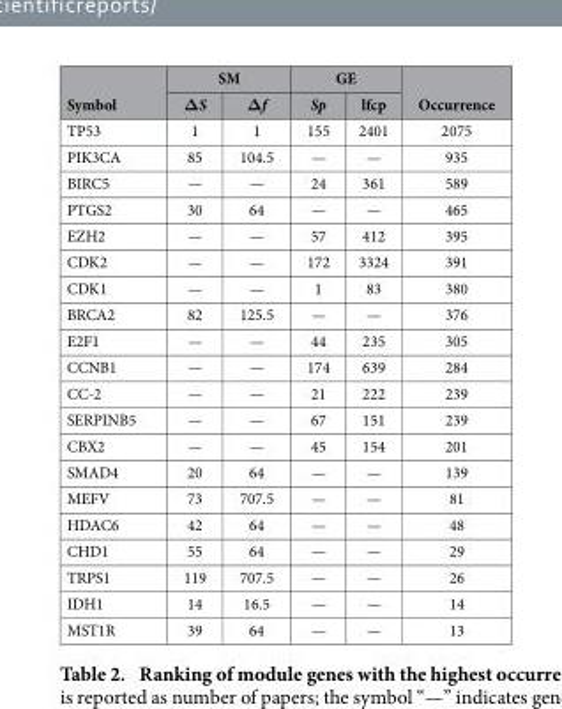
<table><thead><tr><td rowspan="2">Symbol</td><td colspan="2">SM</td><td colspan="2">GE</td><td rowspan="2">Occurrence</td></tr><tr><td>ΔS</td><td>Δf</td><td>Sp</td><td>lfcp</td></tr></thead><tbody><tr><td>TP53</td><td>1</td><td>1</td><td>155</td><td>2401</td><td>2075</td></tr><tr><td>PIK3CA</td><td>85</td><td>104.5</td><td>—</td><td>—</td><td>935</td></tr><tr><td>BIRC5</td><td>—</td><td>—</td><td>24</td><td>361</td><td>589</td></tr><tr><td>PTGS2</td><td>30</td><td>64</td><td>—</td><td>—</td><td>465</td></tr><tr><td>EZH2</td><td>—</td><td>—</td><td>57</td><td>412</td><td>395</td></tr><tr><td>CDK2</td><td>—</td><td>—</td><td>172</td><td>3324</td><td>391</td></tr><tr><td>CDK1</td><td>—</td><td>—</td><td>1</td><td>83</td><td>380</td></tr><tr><td>BRCA2</td><td>82</td><td>125.5</td><td>—</td><td>—</td><td>376</td></tr><tr><td>E2F1</td><td>—</td><td>—</td><td>44</td><td>235</td><td>305</td></tr><tr><td>CCNB1</td><td>—</td><td>—</td><td>174</td><td>639</td><td>284</td></tr><tr><td>CC-2</td><td>—</td><td>—</td><td>21</td><td>222</td><td>239</td></tr><tr><td>SERPINB5</td><td>—</td><td>—</td><td>67</td><td>151</td><td>239</td></tr><tr><td>CBX2</td><td>—</td><td>—</td><td>45</td><td>154</td><td>201</td></tr><tr><td>SMAD4</td><td>20</td><td>64</td><td>—</td><td>—</td><td>139</td></tr><tr><td>MEFV</td><td>73</td><td>707.5</td><td>—</td><td>—</td><td>81</td></tr><tr><td>HDAC6</td><td>42</td><td>64</td><td>—</td><td>—</td><td>48</td></tr><tr><td>CHD1</td><td>55</td><td>64</td><td>—</td><td>—</td><td>29</td></tr><tr><td>TRPS1</td><td>119</td><td>707.5</td><td>—</td><td>—</td><td>26</td></tr><tr><td>IDH1</td><td>14</td><td>16.5</td><td>—</td><td>—</td><td>14</td></tr><tr><td>MST1R</td><td>39</td><td>64</td><td>—</td><td>—</td><td>13</td></tr></tbody></table>